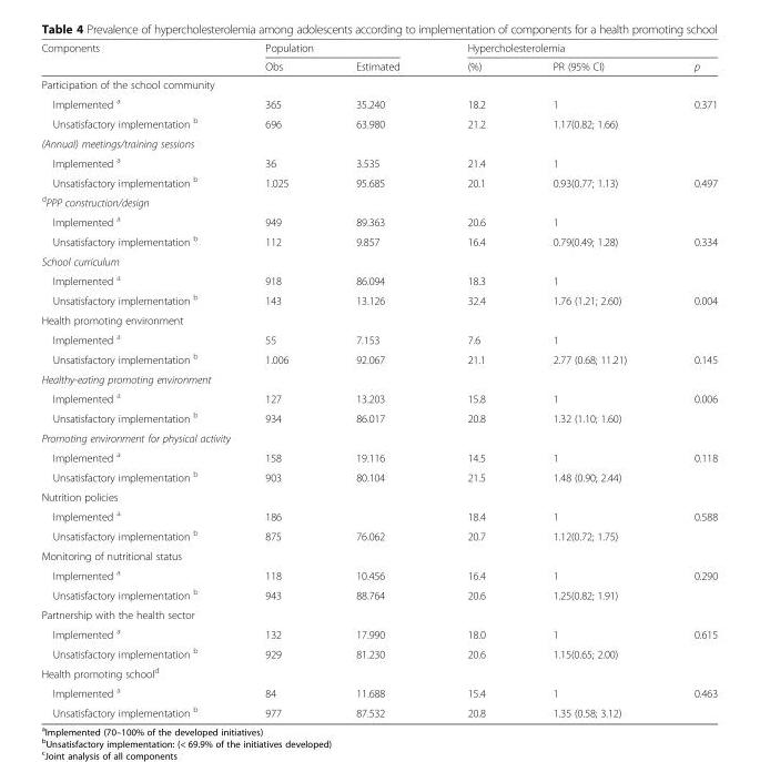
<table><thead><tr><td rowspan="2">Components</td><td colspan="2">Population</td><td colspan="3">Hypercholesterolemia</td></tr><tr><td>Obs</td><td>Estimated</td><td>(%)</td><td>PR (95% CI)</td><td>p</td></tr></thead><tbody><tr><td colspan="6">Participation of the school community</td></tr><tr><td>Implemented <sup>a</sup></td><td>365</td><td>35.240</td><td>18.2</td><td>1</td><td rowspan="2">0.371</td></tr><tr><td>Unsatisfactory implementation <sup>b</sup></td><td>696</td><td>63.980</td><td>21.2</td><td>1.17(0.82; 1.66)</td></tr><tr><td colspan="6">(Annual) meetings/training sessions</td></tr><tr><td>Implemented <sup>a</sup></td><td>36</td><td>3.535</td><td>21.4</td><td>1</td><td></td></tr><tr><td>Unsatisfactory implementation <sup>b</sup></td><td>1.025</td><td>95.685</td><td>20.1</td><td>0.93(0.77; 1.13)</td><td>0.497</td></tr><tr><td colspan="6"><sup>d</sup>PPP construction/design</td></tr><tr><td>Implemented <sup>a</sup></td><td>949</td><td>89.363</td><td>20.6</td><td>1</td><td></td></tr><tr><td>Unsatisfactory implementation <sup>b</sup></td><td>112</td><td>9.857</td><td>16.4</td><td>0.79(0.49; 1.28)</td><td>0.334</td></tr><tr><td colspan="6">School curriculum</td></tr><tr><td>Implemented <sup>a</sup></td><td>918</td><td>86.094</td><td>18.3</td><td>1</td><td></td></tr><tr><td>Unsatisfactory implementation <sup>b</sup></td><td>143</td><td>13.126</td><td>32.4</td><td>1.76 (1.21; 2.60)</td><td>0.004</td></tr><tr><td colspan="6">Health promoting environment</td></tr><tr><td>Implemented <sup>a</sup></td><td>55</td><td>7.153</td><td>7.6</td><td>1</td><td></td></tr><tr><td>Unsatisfactory implementation <sup>b</sup></td><td>1.006</td><td>92.067</td><td>21.1</td><td>2.77 (0.68; 11.21)</td><td>0.145</td></tr><tr><td colspan="6">Healthy-eating promoting environment</td></tr><tr><td>Implemented <sup>a</sup></td><td>127</td><td>13.203</td><td>15.8</td><td>1</td><td rowspan="2">0.006</td></tr><tr><td>Unsatisfactory implementation <sup>b</sup></td><td>934</td><td>86.017</td><td>20.8</td><td>1.32 (1.10; 1.60)</td></tr><tr><td colspan="6">Promoting environment for physical activity</td></tr><tr><td>Implemented <sup>a</sup></td><td>158</td><td>19.116</td><td>14.5</td><td>1</td><td rowspan="2">0.118</td></tr><tr><td>Unsatisfactory implementation <sup>b</sup></td><td>903</td><td>80.104</td><td>21.5</td><td>1.48 (0.90; 2.44)</td></tr><tr><td colspan="6">Nutrition policies</td></tr><tr><td>Implemented <sup>a</sup></td><td>186</td><td></td><td>18.4</td><td>1</td><td rowspan="2">0.588</td></tr><tr><td>Unsatisfactory implementation <sup>b</sup></td><td>875</td><td>76.062</td><td>20.7</td><td>1.12(0.72; 1.75)</td></tr><tr><td colspan="6">Monitoring of nutritional status</td></tr><tr><td>Implemented <sup>a</sup></td><td>118</td><td>10.456</td><td>16.4</td><td>1</td><td rowspan="2">0.290</td></tr><tr><td>Unsatisfactory implementation <sup>b</sup></td><td>943</td><td>88.764</td><td>20.6</td><td>1.25(0.82; 1.91)</td></tr><tr><td colspan="6">Partnership with the health sector</td></tr><tr><td>Implemented <sup>a</sup></td><td>132</td><td>17.990</td><td>18.0</td><td>1</td><td rowspan="2">0.615</td></tr><tr><td>Unsatisfactory implementation <sup>b</sup></td><td>929</td><td>81.230</td><td>20.6</td><td>1.15(0.65; 2.00)</td></tr><tr><td colspan="6">Health promoting school<sup>d</sup></td></tr><tr><td>Implemented <sup>a</sup></td><td>84</td><td>11.688</td><td>15.4</td><td>1</td><td rowspan="2">0.463</td></tr><tr><td>Unsatisfactory implementation <sup>b</sup></td><td>977</td><td>87.532</td><td>20.8</td><td>1.35 (0.58; 3.12)</td></tr></tbody></table>